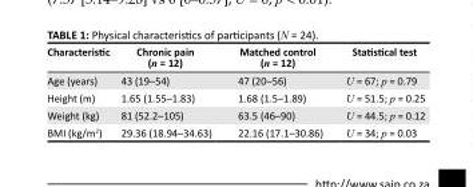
<table><thead><tr><td>Characteristic</td><td>Chronic pain (n = 12)</td><td>Matched control (n = 12)</td><td>Statistical test</td></tr></thead><tbody><tr><td>Age (years)</td><td>43 (19–54)</td><td>47 (20–56)</td><td>U = 67; p = 0.79</td></tr><tr><td>Height (m)</td><td>1.65 (1.55–1.83)</td><td>1.68 (1.5–1.89)</td><td>U = 51.5; p = 0.25</td></tr><tr><td>Weight (kg)</td><td>81 (52.2–105)</td><td>63.5 (46–90)</td><td>U = 44.5; p = 0.12</td></tr><tr><td>BMI (kg/m<sup>2</sup>)</td><td>29.36 (18.94–34.63)</td><td>22.16 (17.1–30.86)</td><td>U = 34; p = 0.03</td></tr></tbody></table>